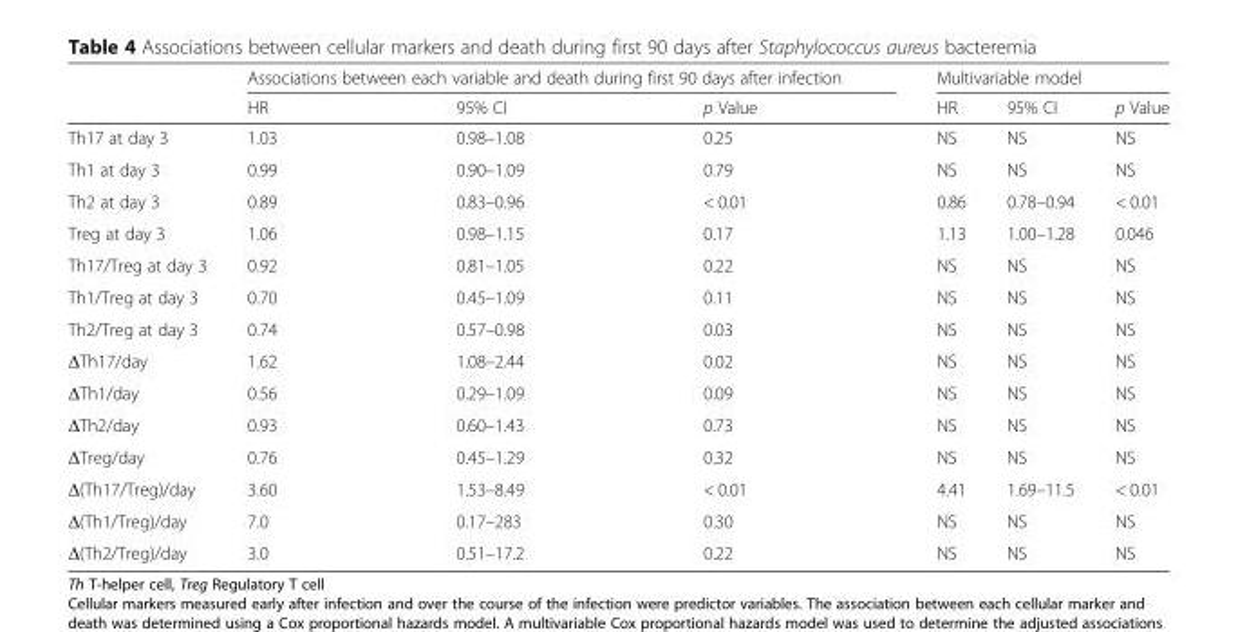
<table><thead><tr><td rowspan="2"></td><td colspan="3">Associations between each variable and death during first 90 days after infection</td><td colspan="3">Multivariable model</td></tr><tr><td>HR</td><td>95% CI</td><td>p Value</td><td>HR</td><td>95% CI</td><td>p Value</td></tr></thead><tbody><tr><td>Th17 at day 3</td><td>1.03</td><td>0.98–1.08</td><td>0.25</td><td>NS</td><td>NS</td><td>NS</td></tr><tr><td>Th1 at day 3</td><td>0.99</td><td>0.90–1.09</td><td>0.79</td><td>NS</td><td>NS</td><td>NS</td></tr><tr><td>Th2 at day 3</td><td>0.89</td><td>0.83–0.96</td><td>&lt; 0.01</td><td>0.86</td><td>0.78–0.94</td><td>&lt; 0.01</td></tr><tr><td>Treg at day 3</td><td>1.06</td><td>0.98–1.15</td><td>0.17</td><td>1.13</td><td>1.00–1.28</td><td>0.046</td></tr><tr><td>Th17/Treg at day 3</td><td>0.92</td><td>0.81–1.05</td><td>0.22</td><td>NS</td><td>NS</td><td>NS</td></tr><tr><td>Th1/Treg at day 3</td><td>0.70</td><td>0.45–1.09</td><td>0.11</td><td>NS</td><td>NS</td><td>NS</td></tr><tr><td>Th2/Treg at day 3</td><td>0.74</td><td>0.57–0.98</td><td>0.03</td><td>NS</td><td>NS</td><td>NS</td></tr><tr><td>ΔTh17/day</td><td>1.62</td><td>1.08–2.44</td><td>0.02</td><td>NS</td><td>NS</td><td>NS</td></tr><tr><td>ΔTh1/day</td><td>0.56</td><td>0.29–1.09</td><td>0.09</td><td>NS</td><td>NS</td><td>NS</td></tr><tr><td>ΔTh2/day</td><td>0.93</td><td>0.60–1.43</td><td>0.73</td><td>NS</td><td>NS</td><td>NS</td></tr><tr><td>ΔTreg/day</td><td>0.76</td><td>0.45–1.29</td><td>0.32</td><td>NS</td><td>NS</td><td>NS</td></tr><tr><td>Δ(Th17/Treg)/day</td><td>3.60</td><td>1.53–8.49</td><td>&lt; 0.01</td><td>4.41</td><td>1.69–11.5</td><td>&lt; 0.01</td></tr><tr><td>Δ(Th1/Treg)/day</td><td>7.0</td><td>0.17–283</td><td>0.30</td><td>NS</td><td>NS</td><td>NS</td></tr><tr><td>Δ(Th2/Treg)/day</td><td>3.0</td><td>0.51–17.2</td><td>0.22</td><td>NS</td><td>NS</td><td>NS</td></tr></tbody></table>